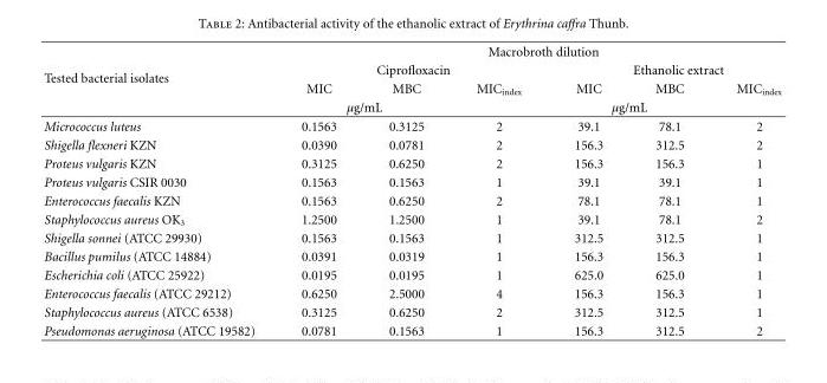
<table><thead><tr><td rowspan="4">Tested bacterial isolates</td><td colspan="6">Macrobroth dilution</td></tr><tr><td colspan="3">Ciprofloxacin</td><td colspan="3">Ethanolic extract</td></tr><tr><td>MIC</td><td>MBC</td><td rowspan="2">MIC<sub>index</sub></td><td>MIC</td><td>MBC</td><td rowspan="2">MIC<sub>index</sub></td></tr><tr><td colspan="2">μg/mL</td><td colspan="2">μg/mL</td></tr></thead><tbody><tr><td>Micrococcus luteus</td><td>0.1563</td><td>0.3125</td><td>2</td><td>39.1</td><td>78.1</td><td>2</td></tr><tr><td>Shigella flexneri KZN</td><td>0.0390</td><td>0.0781</td><td>2</td><td>156.3</td><td>312.5</td><td>2</td></tr><tr><td>Proteus vulgaris KZN</td><td>0.3125</td><td>0.6250</td><td>2</td><td>156.3</td><td>156.3</td><td>1</td></tr><tr><td>Proteus vulgaris CSIR 0030</td><td>0.1563</td><td>0.1563</td><td>1</td><td>39.1</td><td>39.1</td><td>1</td></tr><tr><td>Enterococcus faecalis KZN</td><td>0.1563</td><td>0.6250</td><td>2</td><td>78.1</td><td>78.1</td><td>1</td></tr><tr><td>Staphylococcus aureus OK<sub>3</sub></td><td>1.2500</td><td>1.2500</td><td>1</td><td>39.1</td><td>78.1</td><td>2</td></tr><tr><td>Shigella sonnei (ATCC 29930)</td><td>0.1563</td><td>0.1563</td><td>1</td><td>312.5</td><td>312.5</td><td>1</td></tr><tr><td>Bacillus pumilus (ATCC 14884)</td><td>0.0391</td><td>0.0319</td><td>1</td><td>156.3</td><td>156.3</td><td>1</td></tr><tr><td>Escherichia coli (ATCC 25922)</td><td>0.0195</td><td>0.0195</td><td>1</td><td>625.0</td><td>625.0</td><td>1</td></tr><tr><td>Enterococcus faecalis (ATCC 29212)</td><td>0.6250</td><td>2.5000</td><td>4</td><td>156.3</td><td>156.3</td><td>1</td></tr><tr><td>Staphylococcus aureus (ATCC 6538)</td><td>0.3125</td><td>0.6250</td><td>2</td><td>312.5</td><td>312.5</td><td>1</td></tr><tr><td>Pseudomonas aeruginosa (ATCC 19582)</td><td>0.0781</td><td>0.1563</td><td>1</td><td>156.3</td><td>312.5</td><td>2</td></tr></tbody></table>